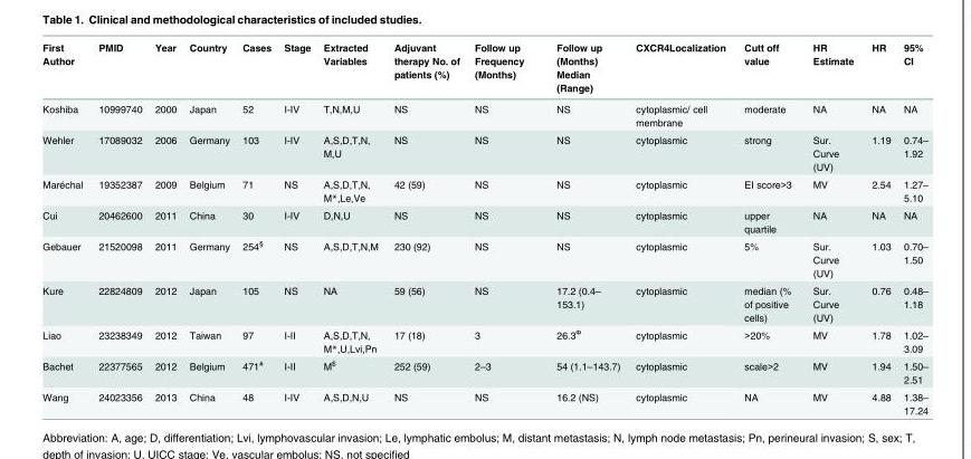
<table><thead><tr><td>First Author</td><td>PMID</td><td>Year</td><td>Country</td><td>Cases</td><td>Stage</td><td>Extracted Variables</td><td>Adjuvant therapy No. of patients (%)</td><td>Follow up Frequency (Months)</td><td>Follow up (Months) Median (Range)</td><td>CXCR4Localization</td><td>Cutt off value</td><td>HR Estimate</td><td>HR</td><td>95% CI</td></tr></thead><tbody><tr><td>Koshiba</td><td>10999740</td><td>2000</td><td>Japan</td><td>52</td><td>I-IV</td><td>T,N,M,U</td><td>NS</td><td>NS</td><td>NS</td><td>cytoplasmic/ cell membrane</td><td>moderate</td><td>NA</td><td>NA</td><td>NA</td></tr><tr><td>Wehler</td><td>17089032</td><td>2006</td><td>Germany</td><td>103</td><td>I-IV</td><td>A,S,D,T,N, M,U</td><td>NS</td><td>NS</td><td>NS</td><td>cytoplasmic</td><td>strong</td><td>Sur. Curve (UV)</td><td>1.19</td><td>0.74– 1.92</td></tr><tr><td>Maréchal</td><td>19352387</td><td>2009</td><td>Belgium</td><td>71</td><td>NS</td><td>A,S,D,T,N, M*,Le,Ve</td><td>42 (59)</td><td>NS</td><td>NS</td><td>cytoplasmic</td><td>EI score&gt;3</td><td>MV</td><td>2.54</td><td>1.27– 5.10</td></tr><tr><td>Cui</td><td>20462600</td><td>2011</td><td>China</td><td>30</td><td>I-IV</td><td>D,N,U</td><td>NS</td><td>NS</td><td>NS</td><td>cytoplasmic</td><td>upper quartile</td><td>NA</td><td>NA</td><td>NA</td></tr><tr><td>Gebauer</td><td>21520098</td><td>2011</td><td>Germany</td><td>254<sup>§</sup></td><td>NS</td><td>A,S,D,T,N,M</td><td>230 (92)</td><td>NS</td><td>NS</td><td>cytoplasmic</td><td>5%</td><td>Sur. Curve (UV)</td><td>1.03</td><td>0.70– 1.50</td></tr><tr><td>Kure</td><td>22824809</td><td>2012</td><td>Japan</td><td>105</td><td>NS</td><td>NA</td><td>59 (56)</td><td>NS</td><td>17.2 (0.4– 153.1)</td><td>cytoplasmic</td><td>median (% of positive cells)</td><td>Sur. Curve (UV)</td><td>0.76</td><td>0.48– 1.18</td></tr><tr><td>Liao</td><td>23238349</td><td>2012</td><td>Taiwan</td><td>97</td><td>I-II</td><td>A,S,D,T,N, M*,U,Lvi,Pn</td><td>17 (18)</td><td>3</td><td>26.3<sup>Ф</sup></td><td>cytoplasmic</td><td>&gt;20%</td><td>MV</td><td>1.78</td><td>1.02– 3.09</td></tr><tr><td>Bachet</td><td>22377565</td><td>2012</td><td>Belgium</td><td>471<sup>#</sup></td><td>I-II</td><td>M<sup>$</sup></td><td>252 (59)</td><td>2–3</td><td>54 (1.1–143.7)</td><td>cytoplasmic</td><td>scale&gt;2</td><td>MV</td><td>1.94</td><td>1.50– 2.51</td></tr><tr><td>Wang</td><td>24023356</td><td>2013</td><td>China</td><td>48</td><td>I-IV</td><td>A,S,D,N,U</td><td>NS</td><td>NS</td><td>16.2 (NS)</td><td>cytoplasmic</td><td>NA</td><td>MV</td><td>4.88</td><td>1.38– 17.24</td></tr></tbody></table>